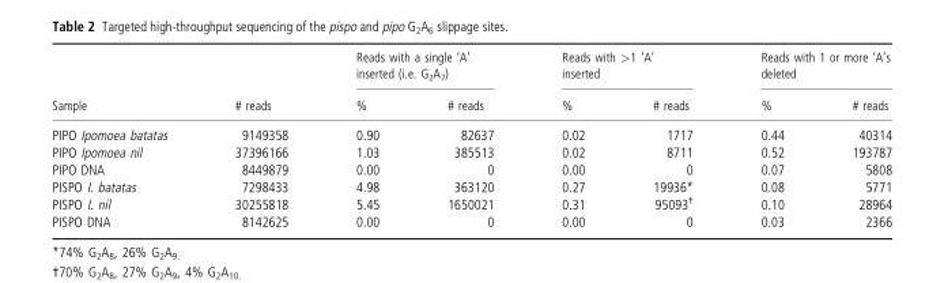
<table><thead><tr><td rowspan="2">Sample</td><td rowspan="2"># reads</td><td colspan="2">Reads with a single ‘A’ inserted (i.e. G<sub>2</sub>A<sub>7</sub>)</td><td colspan="2">Reads with &gt;1 ‘A’ inserted</td><td colspan="2">Reads with 1 or more ‘A’s deleted</td></tr><tr><td>%</td><td># reads</td><td>%</td><td># reads</td><td>%</td><td># reads</td></tr></thead><tbody><tr><td>PIPO Ipomoea batatas</td><td>9149358</td><td>0.90</td><td>82637</td><td>0.02</td><td>1717</td><td>0.44</td><td>40314</td></tr><tr><td>PIPO Ipomoea nil</td><td>37396166</td><td>1.03</td><td>385513</td><td>0.02</td><td>8711</td><td>0.52</td><td>193787</td></tr><tr><td>PIPO DNA</td><td>8449879</td><td>0.00</td><td>0</td><td>0.00</td><td>0</td><td>0.07</td><td>5808</td></tr><tr><td>PISPO I. batatas</td><td>7298433</td><td>4.98</td><td>363120</td><td>0.27</td><td>19936*</td><td>0.08</td><td>5771</td></tr><tr><td>PISPO I. nil</td><td>30255818</td><td>5.45</td><td>1650021</td><td>0.31</td><td>95093<sup>†</sup></td><td>0.10</td><td>28964</td></tr><tr><td>PISPO DNA</td><td>8142625</td><td>0.00</td><td>0</td><td>0.00</td><td>0</td><td>0.03</td><td>2366</td></tr></tbody></table>